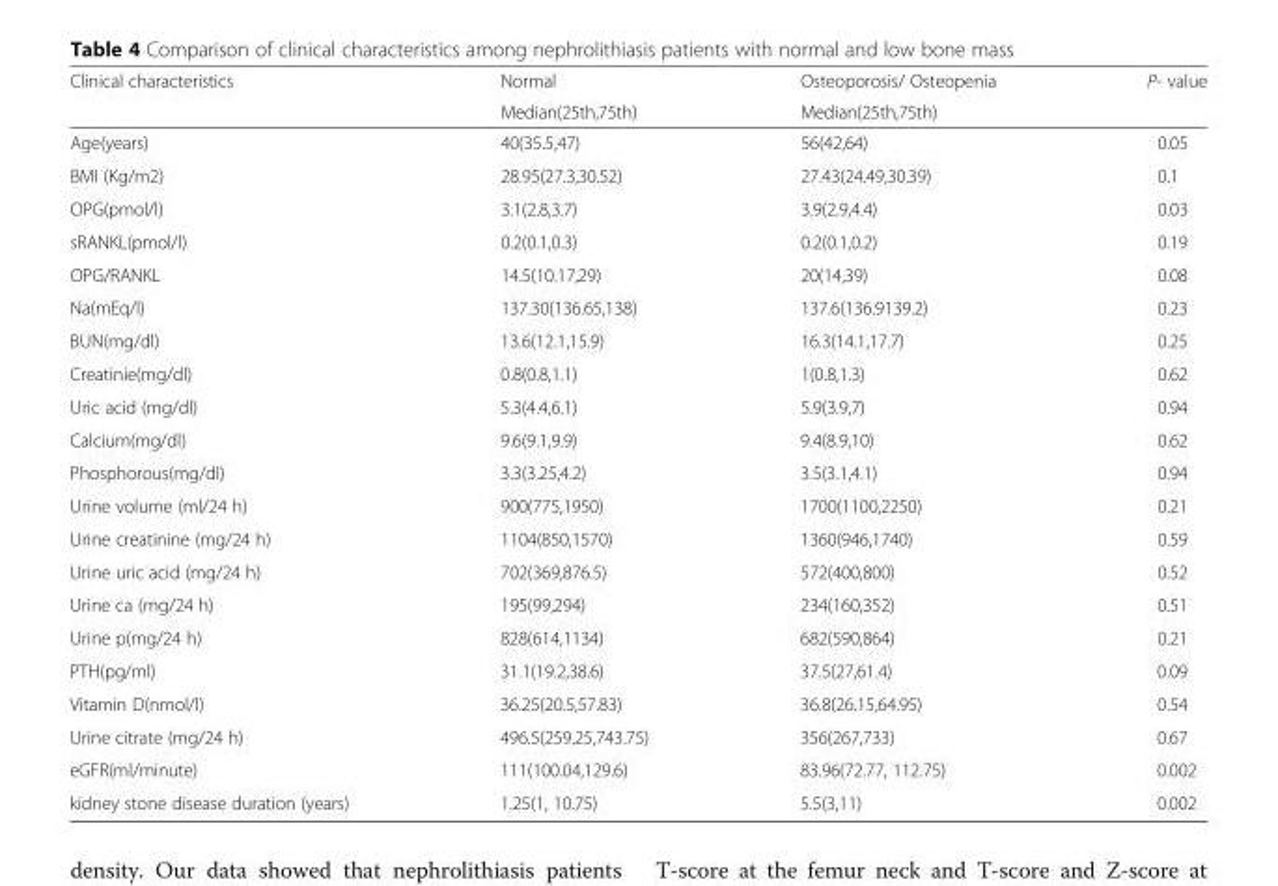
<table><thead><tr><td rowspan="2">Clinical characteristics</td><td rowspan="2">Normal Median(25th,75th)</td><td rowspan="2">Osteoporosis/ Osteopenia Median(25th,75th)</td><td rowspan="2">P- value</td></tr><tr></tr></thead><tbody><tr><td>Age(years)</td><td>40(35.5,47)</td><td>56(42,64)</td><td>0.05</td></tr><tr><td>BMI (Kg/m2)</td><td>28.95(27.3,30.52)</td><td>27.43(24.49,30.39)</td><td>0.1</td></tr><tr><td>OPG(pmol/l)</td><td>3.1(2.8,3.7)</td><td>3.9(2.9,4.4)</td><td>0.03</td></tr><tr><td>sRANKL(pmol/l)</td><td>0.2(0.1,0.3)</td><td>0.2(0.1,0.2)</td><td>0.19</td></tr><tr><td>OPG/RANKL</td><td>14.5(10.17,29)</td><td>20(14,39)</td><td>0.08</td></tr><tr><td>Na(mEq/l)</td><td>137.30(136.65,138)</td><td>137.6(136.9139.2)</td><td>0.23</td></tr><tr><td>BUN(mg/dl)</td><td>13.6(12.1,15.9)</td><td>16.3(14.1,17.7)</td><td>0.25</td></tr><tr><td>Creatinie(mg/dl)</td><td>0.8(0.8,1.1)</td><td>1(0.8,1.3)</td><td>0.62</td></tr><tr><td>Uric acid (mg/dl)</td><td>5.3(4.4,6.1)</td><td>5.9(3.9,7)</td><td>0.94</td></tr><tr><td>Calcium(mg/dl)</td><td>9.6(9.1,9.9)</td><td>9.4(8.9,10)</td><td>0.62</td></tr><tr><td>Phosphorous(mg/dl)</td><td>3.3(3.25,4.2)</td><td>3.5(3.1,4.1)</td><td>0.94</td></tr><tr><td>Urine volume (ml/24 h)</td><td>900(775,1950)</td><td>1700(1100,2250)</td><td>0.21</td></tr><tr><td>Urine creatinine (mg/24 h)</td><td>1104(850,1570)</td><td>1360(946,1740)</td><td>0.59</td></tr><tr><td>Urine uric acid (mg/24 h)</td><td>702(369,876.5)</td><td>572(400,800)</td><td>0.52</td></tr><tr><td>Urine ca (mg/24 h)</td><td>195(99,294)</td><td>234(160,352)</td><td>0.51</td></tr><tr><td>Urine p(mg/24 h)</td><td>828(614,1134)</td><td>682(590,864)</td><td>0.21</td></tr><tr><td>PTH(pg/ml)</td><td>31.1(19.2,38.6)</td><td>37.5(27,61.4)</td><td>0.09</td></tr><tr><td>Vitamin D(nmol/l)</td><td>36.25(20.5,57.83)</td><td>36.8(26.15,64.95)</td><td>0.54</td></tr><tr><td>Urine citrate (mg/24 h)</td><td>496.5(259.25,743.75)</td><td>356(267,733)</td><td>0.67</td></tr><tr><td>eGFR(ml/minute)</td><td>111(100.04,129.6)</td><td>83.96(72.77, 112.75)</td><td>0.002</td></tr><tr><td>kidney stone disease duration (years)</td><td>1.25(1, 10.75)</td><td>5.5(3,11)</td><td>0.002</td></tr></tbody></table>